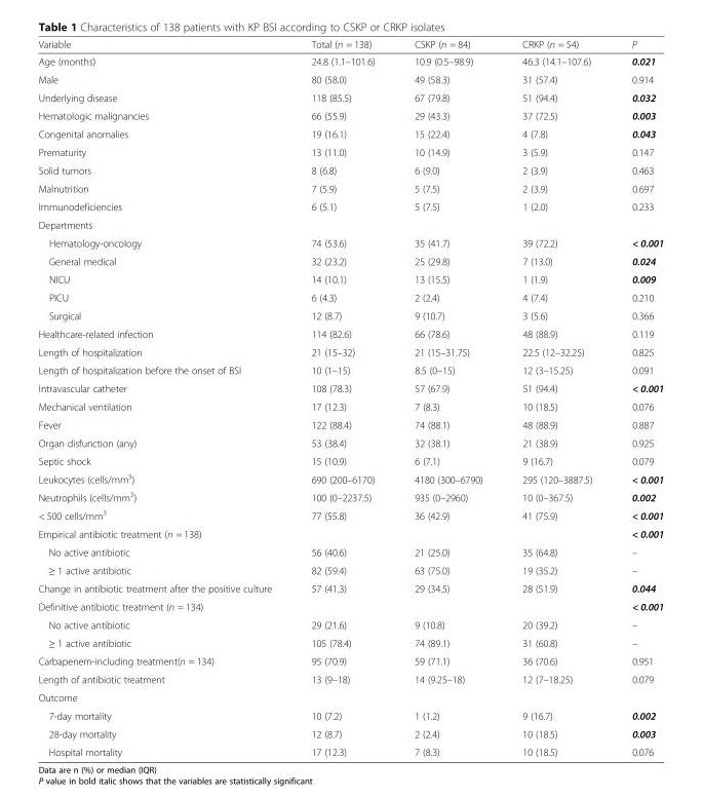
<table><thead><tr><td>Variable</td><td>Total (n = 138)</td><td>CSKP (n = 84)</td><td>CRKP (n = 54)</td><td>P</td></tr></thead><tbody><tr><td>Age (months)</td><td>24.8 (1.1–101.6)</td><td>10.9 (0.5–98.9)</td><td>46.3 (14.1–107.6)</td><td>0.021</td></tr><tr><td>Male</td><td>80 (58.0)</td><td>49 (58.3)</td><td>31 (57.4)</td><td>0.914</td></tr><tr><td>Underlying disease</td><td>118 (85.5)</td><td>67 (79.8)</td><td>51 (94.4)</td><td>0.032</td></tr><tr><td>Hematologic malignancies</td><td>66 (55.9)</td><td>29 (43.3)</td><td>37 (72.5)</td><td>0.003</td></tr><tr><td>Congenital anomalies</td><td>19 (16.1)</td><td>15 (22.4)</td><td>4 (7.8)</td><td>0.043</td></tr><tr><td>Prematurity</td><td>13 (11.0)</td><td>10 (14.9)</td><td>3 (5.9)</td><td>0.147</td></tr><tr><td>Solid tumors</td><td>8 (6.8)</td><td>6 (9.0)</td><td>2 (3.9)</td><td>0.463</td></tr><tr><td>Malnutrition</td><td>7 (5.9)</td><td>5 (7.5)</td><td>2 (3.9)</td><td>0.697</td></tr><tr><td>Immunodeficiencies</td><td>6 (5.1)</td><td>5 (7.5)</td><td>1 (2.0)</td><td>0.233</td></tr><tr><td colspan="5">Departments</td></tr><tr><td>Hematology-oncology</td><td>74 (53.6)</td><td>35 (41.7)</td><td>39 (72.2)</td><td>&lt; 0.001</td></tr><tr><td>General medical</td><td>32 (23.2)</td><td>25 (29.8)</td><td>7 (13.0)</td><td>0.024</td></tr><tr><td>NICU</td><td>14 (10.1)</td><td>13 (15.5)</td><td>1 (1.9)</td><td>0.009</td></tr><tr><td>PICU</td><td>6 (4.3)</td><td>2 (2.4)</td><td>4 (7.4)</td><td>0.210</td></tr><tr><td>Surgical</td><td>12 (8.7)</td><td>9 (10.7)</td><td>3 (5.6)</td><td>0.366</td></tr><tr><td>Healthcare-related infection</td><td>114 (82.6)</td><td>66 (78.6)</td><td>48 (88.9)</td><td>0.119</td></tr><tr><td>Length of hospitalization</td><td>21 (15–32)</td><td>21 (15–31.75)</td><td>22.5 (12–32.25)</td><td>0.825</td></tr><tr><td>Length of hospitalization before the onset of BSI</td><td>10 (1–15)</td><td>8.5 (0–15)</td><td>12 (3–15.25)</td><td>0.091</td></tr><tr><td>Intravascular catheter</td><td>108 (78.3)</td><td>57 (67.9)</td><td>51 (94.4)</td><td>&lt; 0.001</td></tr><tr><td>Mechanical ventilation</td><td>17 (12.3)</td><td>7 (8.3)</td><td>10 (18.5)</td><td>0.076</td></tr><tr><td>Fever</td><td>122 (88.4)</td><td>74 (88.1)</td><td>48 (88.9)</td><td>0.887</td></tr><tr><td>Organ disfunction (any)</td><td>53 (38.4)</td><td>32 (38.1)</td><td>21 (38.9)</td><td>0.925</td></tr><tr><td>Septic shock</td><td>15 (10.9)</td><td>6 (7.1)</td><td>9 (16.7)</td><td>0.079</td></tr><tr><td>Leukocytes (cells/mm<sup>3</sup>)</td><td>690 (200–6170)</td><td>4180 (300–6790)</td><td>295 (120–3887.5)</td><td>&lt; 0.001</td></tr><tr><td>Neutrophils (cells/mm<sup>3</sup>)</td><td>100 (0–2237.5)</td><td>935 (0–2960)</td><td>10 (0–367.5)</td><td>0.002</td></tr><tr><td>&lt; 500 cells/mm<sup>3</sup></td><td>77 (55.8)</td><td>36 (42.9)</td><td>41 (75.9)</td><td>&lt; 0.001</td></tr><tr><td>Empirical antibiotic treatment (n = 138)</td><td></td><td></td><td></td><td>&lt; 0.001</td></tr><tr><td>No active antibiotic</td><td>56 (40.6)</td><td>21 (25.0)</td><td>35 (64.8)</td><td>–</td></tr><tr><td>≥ 1 active antibiotic</td><td>82 (59.4)</td><td>63 (75.0)</td><td>19 (35.2)</td><td>–</td></tr><tr><td>Change in antibiotic treatment after the positive culture</td><td>57 (41.3)</td><td>29 (34.5)</td><td>28 (51.9)</td><td>0.044</td></tr><tr><td>Definitive antibiotic treatment (n = 134)</td><td></td><td></td><td></td><td>&lt; 0.001</td></tr><tr><td>No active antibiotic</td><td>29 (21.6)</td><td>9 (10.8)</td><td>20 (39.2)</td><td>–</td></tr><tr><td>≥ 1 active antibiotic</td><td>105 (78.4)</td><td>74 (89.1)</td><td>31 (60.8)</td><td>–</td></tr><tr><td>Carbapenem-including treatment(n = 134)</td><td>95 (70.9)</td><td>59 (71.1)</td><td>36 (70.6)</td><td>0.951</td></tr><tr><td>Length of antibiotic treatment</td><td>13 (9–18)</td><td>14 (9.25–18)</td><td>12 (7–18.25)</td><td>0.079</td></tr><tr><td colspan="5">Outcome</td></tr><tr><td>7-day mortality</td><td>10 (7.2)</td><td>1 (1.2)</td><td>9 (16.7)</td><td>0.002</td></tr><tr><td>28-day mortality</td><td>12 (8.7)</td><td>2 (2.4)</td><td>10 (18.5)</td><td>0.003</td></tr><tr><td>Hospital mortality</td><td>17 (12.3)</td><td>7 (8.3)</td><td>10 (18.5)</td><td>0.076</td></tr></tbody></table>